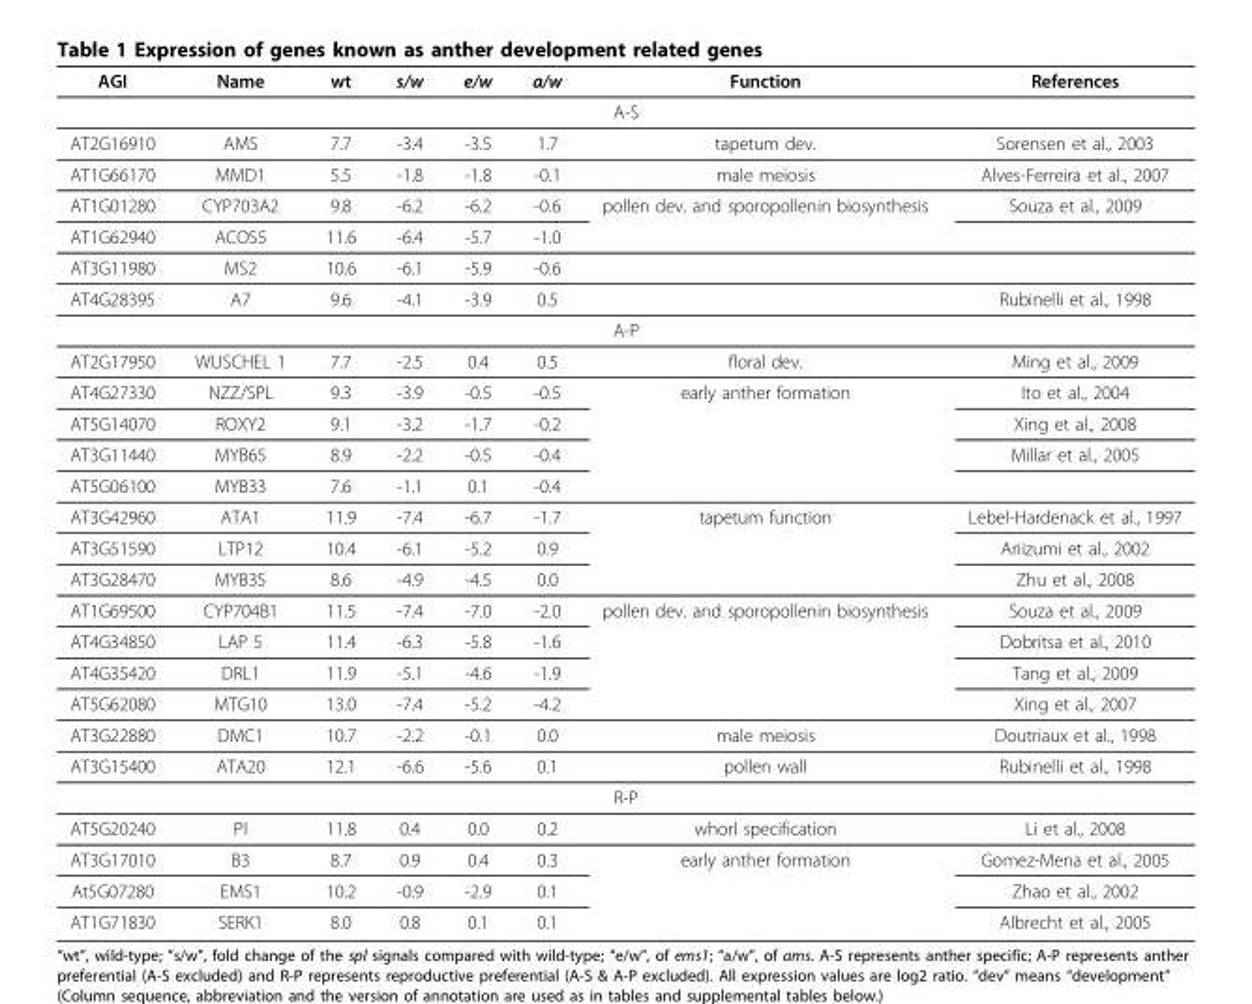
<table><thead><tr><td>AGI</td><td>Name</td><td>wt</td><td>s/w</td><td>e/w</td><td>a/w</td><td>Function</td><td>References</td></tr></thead><tbody><tr><td colspan="8">A-S</td></tr><tr><td>AT2G16910</td><td>AMS</td><td>7.7</td><td>-3.4</td><td>-3.5</td><td>1.7</td><td>tapetum dev.</td><td>Sorensen et al., 2003</td></tr><tr><td>AT1G66170</td><td>MMD1</td><td>5.5</td><td>-1.8</td><td>-1.8</td><td>-0.1</td><td>male meiosis</td><td>Alves-Ferreira et al., 2007</td></tr><tr><td>AT1G01280</td><td>CYP703A2</td><td>9.8</td><td>-6.2</td><td>-6.2</td><td>-0.6</td><td>pollen dev. and sporopollenin biosynthesis</td><td>Souza et al., 2009</td></tr><tr><td>AT1G62940</td><td>ACOS5</td><td>11.6</td><td>-6.4</td><td>-5.7</td><td>-1.0</td><td></td><td></td></tr><tr><td>AT3G11980</td><td>MS2</td><td>10.6</td><td>-6.1</td><td>-5.9</td><td>-0.6</td><td></td><td></td></tr><tr><td>AT4G28395</td><td>A7</td><td>9.6</td><td>-4.1</td><td>-3.9</td><td>0.5</td><td></td><td>Rubinelli et al., 1998</td></tr><tr><td colspan="8">A-P</td></tr><tr><td>AT2G17950</td><td>WUSCHEL 1</td><td>7.7</td><td>-2.5</td><td>0.4</td><td>0.5</td><td>floral dev.</td><td>Ming et al., 2009</td></tr><tr><td>AT4G27330</td><td>NZZ/SPL</td><td>9.3</td><td>-3.9</td><td>-0.5</td><td>-0.5</td><td>early anther formation</td><td>Ito et al., 2004</td></tr><tr><td>AT5G14070</td><td>ROXY2</td><td>9.1</td><td>-3.2</td><td>-1.7</td><td>-0.2</td><td></td><td>Xing et al., 2008</td></tr><tr><td>AT3G11440</td><td>MYB65</td><td>8.9</td><td>-2.2</td><td>-0.5</td><td>-0.4</td><td></td><td>Millar et al., 2005</td></tr><tr><td>AT5G06100</td><td>MYB33</td><td>7.6</td><td>-1.1</td><td>0.1</td><td>-0.4</td><td></td><td></td></tr><tr><td>AT3G42960</td><td>ATA1</td><td>11.9</td><td>-7.4</td><td>-6.7</td><td>-1.7</td><td>tapetum function</td><td>Lebel-Hardenack et al., 1997</td></tr><tr><td>AT3G51590</td><td>LTP12</td><td>10.4</td><td>-6.1</td><td>-5.2</td><td>0.9</td><td></td><td>Ariizumi et al., 2002</td></tr><tr><td>AT3G28470</td><td>MYB35</td><td>8.6</td><td>-4.9</td><td>-4.5</td><td>0.0</td><td></td><td>Zhu et al., 2008</td></tr><tr><td>AT1G69500</td><td>CYP704B1</td><td>11.5</td><td>-7.4</td><td>-7.0</td><td>-2.0</td><td>pollen dev. and sporopollenin biosynthesis</td><td>Souza et al., 2009</td></tr><tr><td>AT4G34850</td><td>LAP 5</td><td>11.4</td><td>-6.3</td><td>-5.8</td><td>-1.6</td><td></td><td>Dobritsa et al., 2010</td></tr><tr><td>AT4G35420</td><td>DRL1</td><td>11.9</td><td>-5.1</td><td>-4.6</td><td>-1.9</td><td></td><td>Tang et al., 2009</td></tr><tr><td>AT5G62080</td><td>MTG10</td><td>13.0</td><td>-7.4</td><td>-5.2</td><td>-4.2</td><td></td><td>Xing et al., 2007</td></tr><tr><td>AT3G22880</td><td>DMC1</td><td>10.7</td><td>-2.2</td><td>-0.1</td><td>0.0</td><td>male meiosis</td><td>Doutriaux et al., 1998</td></tr><tr><td>AT3G15400</td><td>ATA20</td><td>12.1</td><td>-6.6</td><td>-5.6</td><td>0.1</td><td>pollen wall</td><td>Rubinelli et al., 1998</td></tr><tr><td colspan="8">R-P</td></tr><tr><td>AT5G20240</td><td>PI</td><td>11.8</td><td>0.4</td><td>0.0</td><td>0.2</td><td>whorl specification</td><td>Li et al., 2008</td></tr><tr><td>AT3G17010</td><td>B3</td><td>8.7</td><td>0.9</td><td>0.4</td><td>0.3</td><td>early anther formation</td><td>Gomez-Mena et al., 2005</td></tr><tr><td>At5G07280</td><td>EMS1</td><td>10.2</td><td>-0.9</td><td>-2.9</td><td>0.1</td><td></td><td>Zhao et al., 2002</td></tr><tr><td>AT1G71830</td><td>SERK1</td><td>8.0</td><td>0.8</td><td>0.1</td><td>0.1</td><td></td><td>Albrecht et al., 2005</td></tr></tbody></table>